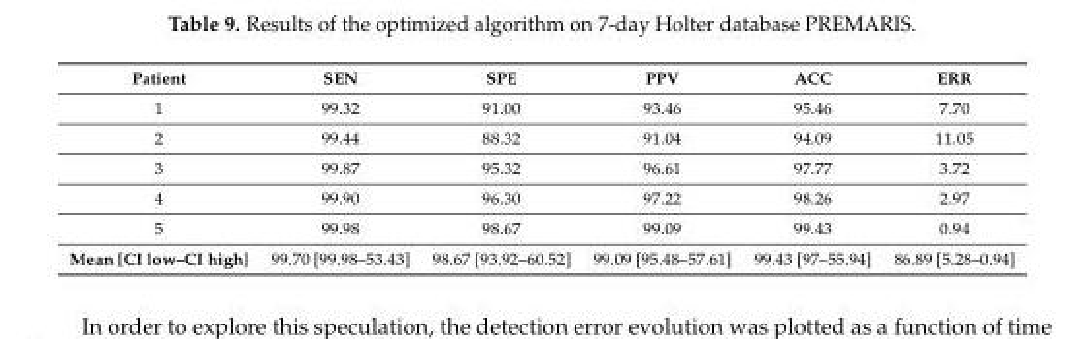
<table><thead><tr><td>Patient</td><td>SEN</td><td>SPE</td><td>PPV</td><td>ACC</td><td>ERR</td></tr></thead><tbody><tr><td>1</td><td>99.32</td><td>91.00</td><td>93.46</td><td>95.46</td><td>7.70</td></tr><tr><td>2</td><td>99.44</td><td>88.32</td><td>91.04</td><td>94.09</td><td>11.05</td></tr><tr><td>3</td><td>99.87</td><td>95.32</td><td>96.61</td><td>97.77</td><td>3.72</td></tr><tr><td>4</td><td>99.90</td><td>96.30</td><td>97.22</td><td>98.26</td><td>2.97</td></tr><tr><td>5</td><td>99.98</td><td>98.67</td><td>99.09</td><td>99.43</td><td>0.94</td></tr><tr><td>Mean [CI low–CI high]</td><td>99.70 [99.98–53.43]</td><td>98.67 [93.92–60.52]</td><td>99.09 [95.48–57.61]</td><td>99.43 [97–55.94]</td><td>86.89 [5.28–0.94]</td></tr></tbody></table>